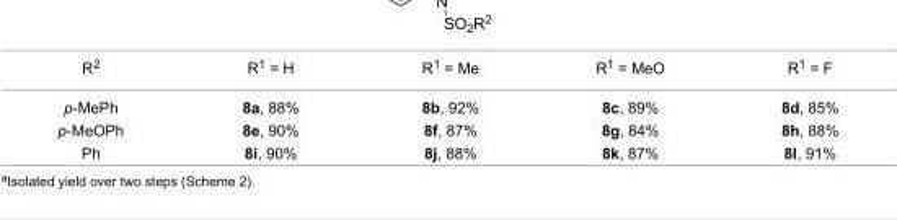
<table><tbody><tr><td>R<sup>2</sup></td><td>R<sup>1</sup> = H</td><td>R<sup>1</sup> = Me</td><td>R<sup>1</sup> = MeO</td><td>R<sup>1</sup> = F</td></tr><tr><td>p-MePh</td><td>8a, 88%</td><td>8b, 92%</td><td>8c, 89%</td><td>8d, 85%</td></tr><tr><td>p-MeOPh</td><td>8e, 90%</td><td>8f, 87%</td><td>8g, 84%</td><td>8h, 88%</td></tr><tr><td>Ph</td><td>8i, 90%</td><td>8j, 88%</td><td>8k, 87%</td><td>8l, 91%</td></tr></tbody></table>